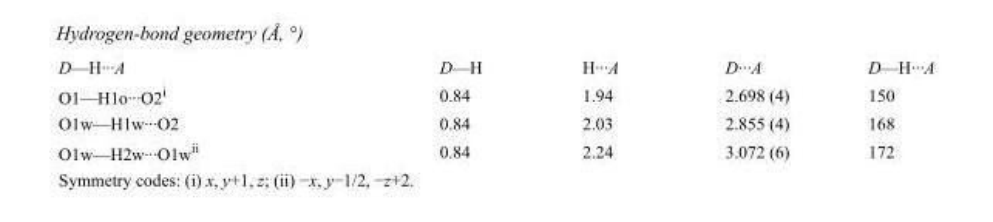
<table><tbody><tr><td>D—H···A</td><td>D—H</td><td>H···A</td><td>D···A</td><td>D—H···A</td></tr><tr><td>O1—H1o···O2<sup>i</sup></td><td>0.84</td><td>1.94</td><td>2.698 (4)</td><td>150</td></tr><tr><td>O1w—H1w···O2</td><td>0.84</td><td>2.03</td><td>2.855 (4)</td><td>168</td></tr><tr><td>O1w—H2w···O1w<sup>ii</sup></td><td>0.84</td><td>2.24</td><td>3.072 (6)</td><td>172</td></tr></tbody></table>